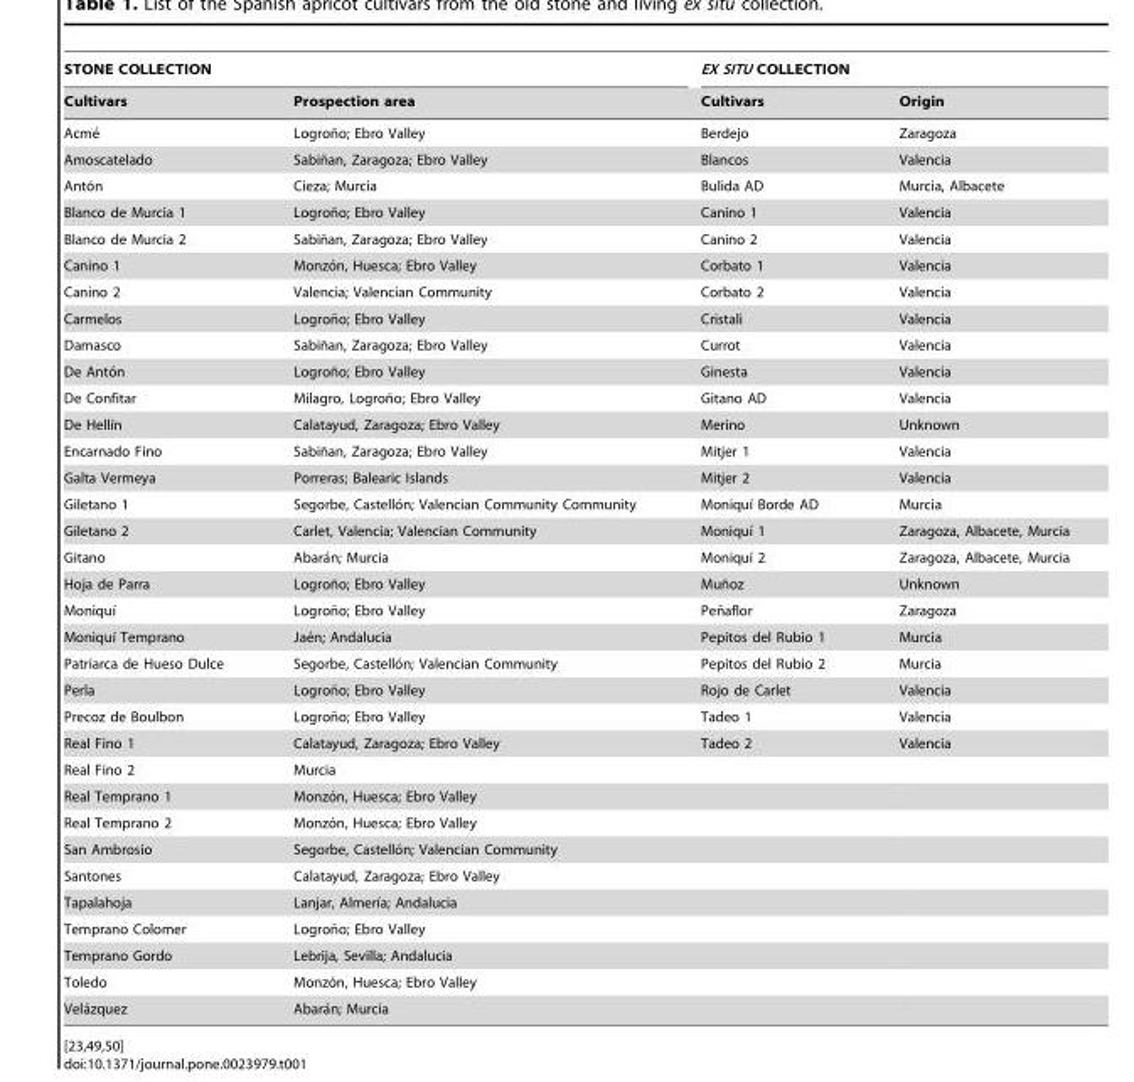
<table><thead><tr><td colspan="2">STONE COLLECTION</td><td colspan="2">EX SITU COLLECTION</td></tr><tr><td>Cultivars</td><td>Prospection area</td><td>Cultivars</td><td>Origin</td></tr></thead><tbody><tr><td>Acme´</td><td>Logron˜o; Ebro Valley</td><td>Berdejo</td><td>Zaragoza</td></tr><tr><td>Amoscatelado</td><td>Sabin˜an, Zaragoza; Ebro Valley</td><td>Blancos</td><td>Valencia</td></tr><tr><td>Anto´n</td><td>Cieza; Murcia</td><td>Bulida AD</td><td>Murcia, Albacete</td></tr><tr><td>Blanco de Murcia 1</td><td>Logron˜o; Ebro Valley</td><td>Canino 1</td><td>Valencia</td></tr><tr><td>Blanco de Murcia 2</td><td>Sabin˜an, Zaragoza; Ebro Valley</td><td>Canino 2</td><td>Valencia</td></tr><tr><td>Canino 1</td><td>Monzo´n, Huesca; Ebro Valley</td><td>Corbato 1</td><td>Valencia</td></tr><tr><td>Canino 2</td><td>Valencia; Valencian Community</td><td>Corbato 2</td><td>Valencia</td></tr><tr><td>Carmelos</td><td>Logron˜o; Ebro Valley</td><td>Cristali</td><td>Valencia</td></tr><tr><td>Damasco</td><td>Sabin˜an, Zaragoza; Ebro Valley</td><td>Currot</td><td>Valencia</td></tr><tr><td>De Anto´n</td><td>Logron˜o; Ebro Valley</td><td>Ginesta</td><td>Valencia</td></tr><tr><td>De Confitar</td><td>Milagro, Logron˜o; Ebro Valley</td><td>Gitano AD</td><td>Valencia</td></tr><tr><td>De Hellı´n</td><td>Calatayud, Zaragoza; Ebro Valley</td><td>Merino</td><td>Unknown</td></tr><tr><td>Encarnado Fino</td><td>Sabin˜an, Zaragoza; Ebro Valley</td><td>Mitjer 1</td><td>Valencia</td></tr><tr><td>Galta Vermeya</td><td>Porreras; Balearic Islands</td><td>Mitjer 2</td><td>Valencia</td></tr><tr><td>Giletano 1</td><td>Segorbe, Castello´n; Valencian Community Community</td><td>Moniquı´ Borde AD</td><td>Murcia</td></tr><tr><td>Giletano 2</td><td>Carlet, Valencia; Valencian Community</td><td>Moniquı´ 1</td><td>Zaragoza, Albacete, Murcia</td></tr><tr><td>Gitano</td><td>Abara´n; Murcia</td><td>Moniquı´ 2</td><td>Zaragoza, Albacete, Murcia</td></tr><tr><td>Hoja de Parra</td><td>Logron˜o; Ebro Valley</td><td>Mun˜oz</td><td>Unknown</td></tr><tr><td>Moniquı´</td><td>Logron˜o; Ebro Valley</td><td>Pen˜aflor</td><td>Zaragoza</td></tr><tr><td>Moniquı´ Temprano</td><td>Jae´n; Andalucia</td><td>Pepitos del Rubio 1</td><td>Murcia</td></tr><tr><td>Patriarca de Hueso Dulce</td><td>Segorbe, Castello´n; Valencian Community</td><td>Pepitos del Rubio 2</td><td>Murcia</td></tr><tr><td>Perla</td><td>Logron˜o; Ebro Valley</td><td>Rojo de Carlet</td><td>Valencia</td></tr><tr><td>Precoz de Boulbon</td><td>Logron˜o; Ebro Valley</td><td>Tadeo 1</td><td>Valencia</td></tr><tr><td>Real Fino 1</td><td>Calatayud, Zaragoza; Ebro Valley</td><td>Tadeo 2</td><td>Valencia</td></tr><tr><td>Real Fino 2</td><td>Murcia</td><td></td><td></td></tr><tr><td>Real Temprano 1</td><td>Monzo´n, Huesca; Ebro Valley</td><td></td><td></td></tr><tr><td>Real Temprano 2</td><td>Monzo´n, Huesca; Ebro Valley</td><td></td><td></td></tr><tr><td>San Ambrosio</td><td>Segorbe, Castello´n; Valencian Community</td><td></td><td></td></tr><tr><td>Santones</td><td>Calatayud, Zaragoza; Ebro Valley</td><td></td><td></td></tr><tr><td>Tapalahoja</td><td>Lanjar, Almerı´a; Andalucia</td><td></td><td></td></tr><tr><td>Temprano Colomer</td><td>Logron˜o; Ebro Valley</td><td></td><td></td></tr><tr><td>Temprano Gordo</td><td>Lebrija, Sevilla; Andalucia</td><td></td><td></td></tr><tr><td>Toledo</td><td>Monzo´n, Huesca; Ebro Valley</td><td></td><td></td></tr><tr><td>Vela´zquez</td><td>Abara´n; Murcia</td><td></td><td></td></tr></tbody></table>